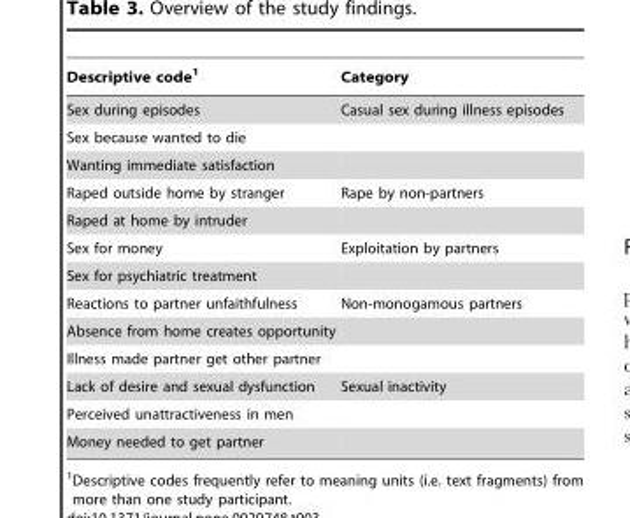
<table><thead><tr><td>Descriptive code<sup>1</sup></td><td>Category</td></tr></thead><tbody><tr><td>Sex during episodes</td><td>Casual sex during illness episodes</td></tr><tr><td colspan="2">Sex because wanted to die</td></tr><tr><td colspan="2">Wanting immediate satisfaction</td></tr><tr><td>Raped outside home by stranger</td><td>Rape by non-partners</td></tr><tr><td colspan="2">Raped at home by intruder</td></tr><tr><td>Sex for money</td><td>Exploitation by partners</td></tr><tr><td colspan="2">Sex for psychiatric treatment</td></tr><tr><td>Reactions to partner unfaithfulness</td><td>Non-monogamous partners</td></tr><tr><td colspan="2">Absence from home creates opportunity</td></tr><tr><td colspan="2">Illness made partner get other partner</td></tr><tr><td>Lack of desire and sexual dysfunction</td><td>Sexual inactivity</td></tr><tr><td colspan="2">Perceived unattractiveness in men</td></tr><tr><td>Money needed to get partner</td><td></td></tr></tbody></table>